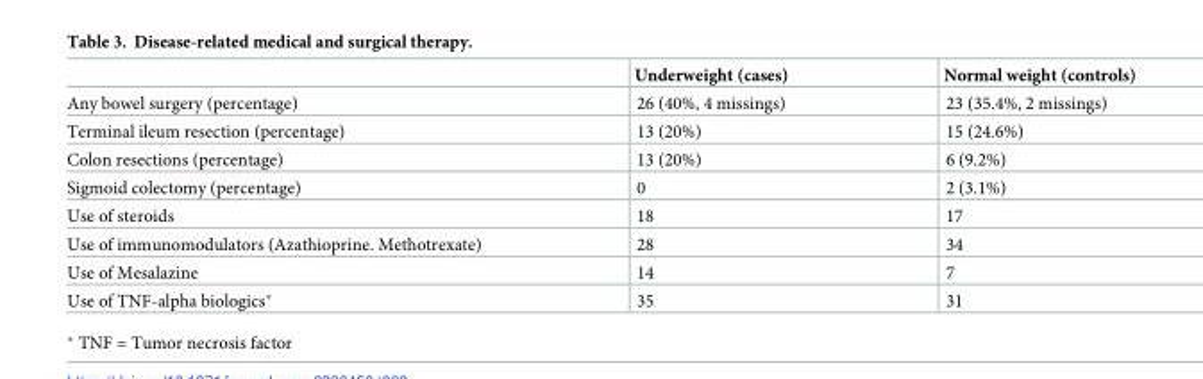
<table><thead><tr><td></td><td>Underweight (cases)</td><td>Normal weight (controls)</td></tr></thead><tbody><tr><td>Any bowel surgery (percentage)</td><td>26 (40%, 4 missings)</td><td>23 (35.4%, 2 missings)</td></tr><tr><td>Terminal ileum resection (percentage)</td><td>13 (20%)</td><td>15 (24.6%)</td></tr><tr><td>Colon resections (percentage)</td><td>13 (20%)</td><td>6 (9.2%)</td></tr><tr><td>Sigmoid colectomy (percentage)</td><td>0</td><td>2 (3.1%)</td></tr><tr><td>Use of steroids</td><td>18</td><td>17</td></tr><tr><td>Use of immunomodulators (Azathioprine. Methotrexate)</td><td>28</td><td>34</td></tr><tr><td>Use of Mesalazine</td><td>14</td><td>7</td></tr><tr><td>Use of TNF-alpha biologics*</td><td>35</td><td>31</td></tr></tbody></table>